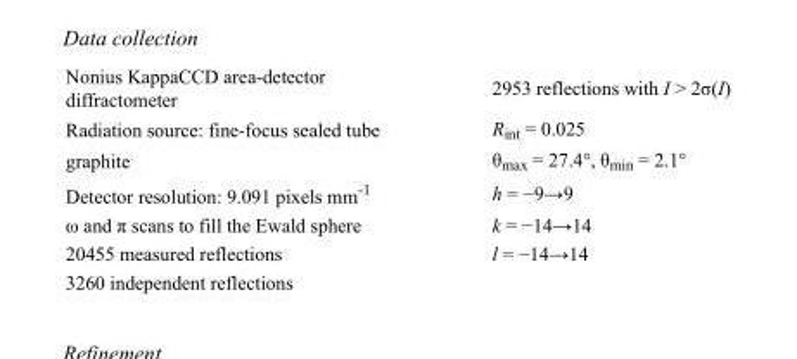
<table><tbody><tr><td>Nonius KappaCCD area-detector diffractometer</td><td>2953 reflections with I &gt; 2σ(I)</td></tr><tr><td>Radiation source: fine-focus sealed tube</td><td>R<sub>int</sub> = 0.025</td></tr><tr><td>graphite</td><td>θ<sub>max</sub> = 27.4°, θ<sub>min</sub> = 2.1°</td></tr><tr><td>Detector resolution: 9.091 pixels mm<sup>-1</sup></td><td>h = −9→9</td></tr><tr><td>ω and π scans to fill the Ewald sphere</td><td>k = −14→14</td></tr><tr><td>20455 measured reflections</td><td>l = −14→14</td></tr><tr><td>3260 independent reflections</td><td></td></tr></tbody></table>